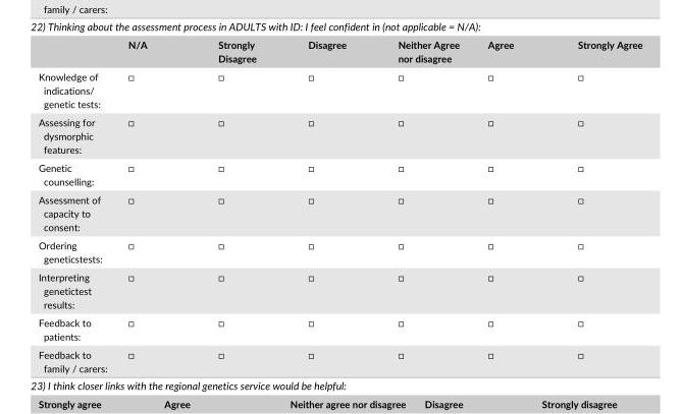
<table><thead><tr><td></td><td>N/A</td><td>Strongly Disagree</td><td>Disagree</td><td>Neither Agree nor disagree</td><td>Agree</td><td>Strongly Agree</td></tr></thead><tbody><tr><td>Knowledge of indications/ genetic tests:</td><td>□</td><td>□</td><td>□</td><td>□</td><td>□</td><td>□</td></tr><tr><td>Assessing for dysmorphic features:</td><td>□</td><td>□</td><td>□</td><td>□</td><td>□</td><td>□</td></tr><tr><td>Genetic counselling:</td><td>□</td><td>□</td><td>□</td><td>□</td><td>□</td><td>□</td></tr><tr><td>Assessment of capacity to consent:</td><td>□</td><td>□</td><td>□</td><td>□</td><td>□</td><td>□</td></tr><tr><td>Ordering geneticstests:</td><td>□</td><td>□</td><td>□</td><td>□</td><td>□</td><td>□</td></tr><tr><td>Interpreting genetictest results:</td><td>□</td><td>□</td><td>□</td><td>□</td><td>□</td><td>□</td></tr><tr><td>Feedback to patients:</td><td>□</td><td>□</td><td>□</td><td>□</td><td>□</td><td>□</td></tr><tr><td>Feedback to family / carers:</td><td>□</td><td>□</td><td>□</td><td>□</td><td>□</td><td>□</td></tr></tbody></table>